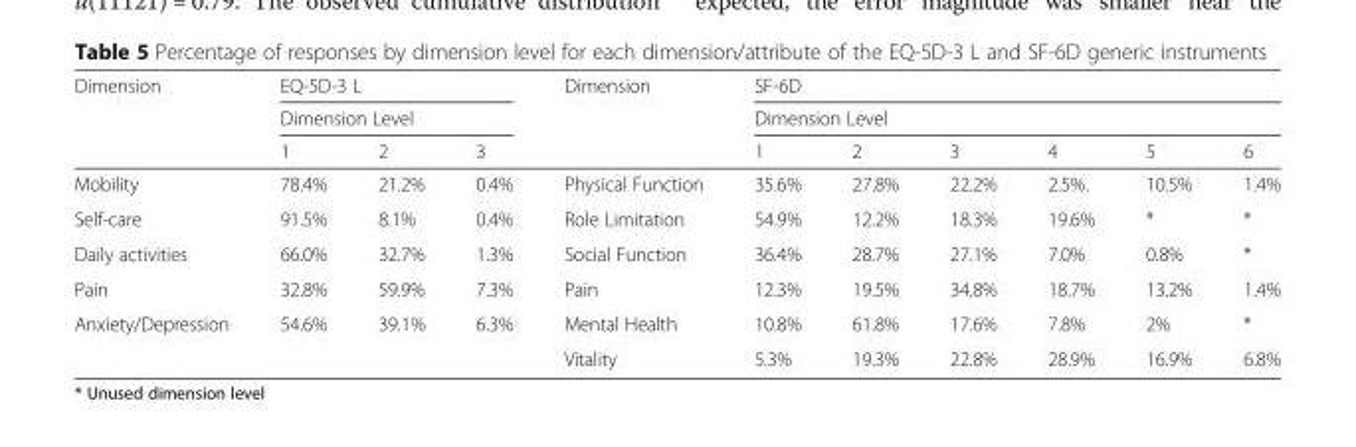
<table><thead><tr><td rowspan="3">Dimension</td><td rowspan="2" colspan="3">EQ-5D-3 L Dimension Level</td><td rowspan="3">Dimension</td><td rowspan="2" colspan="6">SF-6D Dimension Level</td></tr><tr></tr><tr><td>1</td><td>2</td><td>3</td><td>1</td><td>2</td><td>3</td><td>4</td><td>5</td><td>6</td></tr></thead><tbody><tr><td>Mobility</td><td>78.4%</td><td>21.2%</td><td>0.4%</td><td>Physical Function</td><td>35.6%</td><td>27.8%</td><td>22.2%</td><td>2.5%.</td><td>10.5%</td><td>1.4%</td></tr><tr><td>Self-care</td><td>91.5%</td><td>8.1%</td><td>0.4%</td><td>Role Limitation</td><td>54.9%</td><td>12.2%</td><td>18.3%</td><td>19.6%</td><td>*</td><td>*</td></tr><tr><td>Daily activities</td><td>66.0%</td><td>32.7%</td><td>1.3%</td><td>Social Function</td><td>36.4%</td><td>28.7%</td><td>27.1%</td><td>7.0%</td><td>0.8%</td><td>*</td></tr><tr><td>Pain</td><td>32.8%</td><td>59.9%</td><td>7.3%</td><td>Pain</td><td>12.3%</td><td>19.5%</td><td>34.8%</td><td>18.7%</td><td>13.2%</td><td>1.4%</td></tr><tr><td rowspan="2">Anxiety/Depression</td><td>54.6%</td><td>39.1%</td><td>6.3%</td><td>Mental Health</td><td>10.8%</td><td>61.8%</td><td>17.6%</td><td>7.8%</td><td>2%</td><td>*</td></tr><tr><td></td><td></td><td></td><td>Vitality</td><td>5.3%</td><td>19.3%</td><td>22.8%</td><td>28.9%</td><td>16.9%</td><td>6.8%</td></tr></tbody></table>